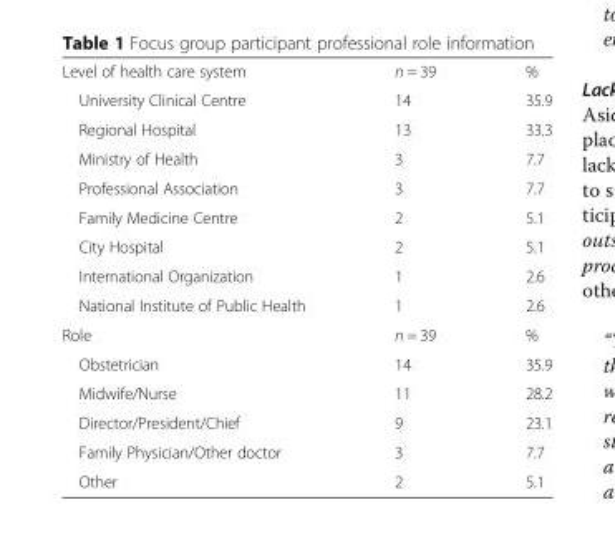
<table><tbody><tr><td>Level of health care system</td><td>n = 39</td><td>%</td></tr><tr><td>University Clinical Centre</td><td>14</td><td>35.9</td></tr><tr><td>Regional Hospital</td><td>13</td><td>33.3</td></tr><tr><td>Ministry of Health</td><td>3</td><td>7.7</td></tr><tr><td>Professional Association</td><td>3</td><td>7.7</td></tr><tr><td>Family Medicine Centre</td><td>2</td><td>5.1</td></tr><tr><td>City Hospital</td><td>2</td><td>5.1</td></tr><tr><td>International Organization</td><td>1</td><td>2.6</td></tr><tr><td>National Institute of Public Health</td><td>1</td><td>2.6</td></tr><tr><td>Role</td><td>n = 39</td><td>%</td></tr><tr><td>Obstetrician</td><td>14</td><td>35.9</td></tr><tr><td>Midwife/Nurse</td><td>11</td><td>28.2</td></tr><tr><td>Director/President/Chief</td><td>9</td><td>23.1</td></tr><tr><td>Family Physician/Other doctor</td><td>3</td><td>7.7</td></tr><tr><td>Other</td><td>2</td><td>5.1</td></tr></tbody></table>